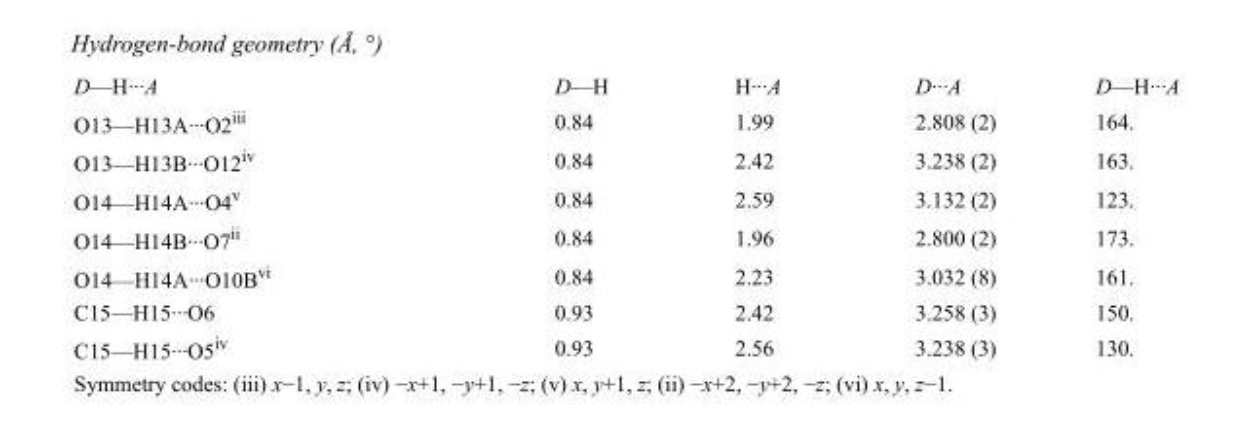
<table><tbody><tr><td>D—H···A</td><td>D—H</td><td>H···A</td><td>D···A</td><td>D—H···A</td></tr><tr><td>O13—H13A···O2<sup>iii</sup></td><td>0.84</td><td>1.99</td><td>2.808 (2)</td><td>164.</td></tr><tr><td>O13—H13B···O12<sup>iv</sup></td><td>0.84</td><td>2.42</td><td>3.238 (2)</td><td>163.</td></tr><tr><td>O14—H14A···O4<sup>v</sup></td><td>0.84</td><td>2.59</td><td>3.132 (2)</td><td>123.</td></tr><tr><td>O14—H14B···O7<sup>ii</sup></td><td>0.84</td><td>1.96</td><td>2.800 (2)</td><td>173.</td></tr><tr><td>O14—H14A···O10B<sup>vi</sup></td><td>0.84</td><td>2.23</td><td>3.032 (8)</td><td>161.</td></tr><tr><td>C15—H15···O6</td><td>0.93</td><td>2.42</td><td>3.258 (3)</td><td>150.</td></tr><tr><td>C15—H15···O5<sup>iv</sup></td><td>0.93</td><td>2.56</td><td>3.238 (3)</td><td>130.</td></tr></tbody></table>